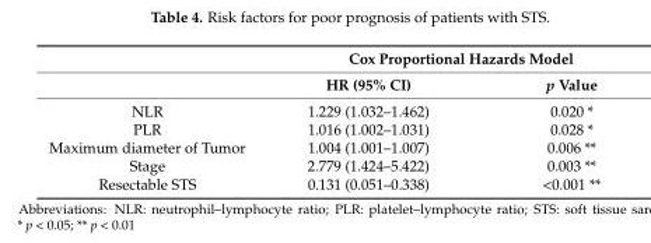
<table><thead><tr><td rowspan="2"></td><td colspan="2">Cox Proportional Hazards Model</td></tr><tr><td>HR (95% CI)</td><td>p Value</td></tr></thead><tbody><tr><td>NLR</td><td>1.229 (1.032–1.462)</td><td>0.020 *</td></tr><tr><td>PLR</td><td>1.016 (1.002–1.031)</td><td>0.028 *</td></tr><tr><td>Maximum diameter of Tumor</td><td>1.004 (1.001–1.007)</td><td>0.006 **</td></tr><tr><td>Stage</td><td>2.779 (1.424–5.422)</td><td>0.003 **</td></tr><tr><td>Resectable STS</td><td>0.131 (0.051–0.338)</td><td>&lt;0.001 **</td></tr></tbody></table>